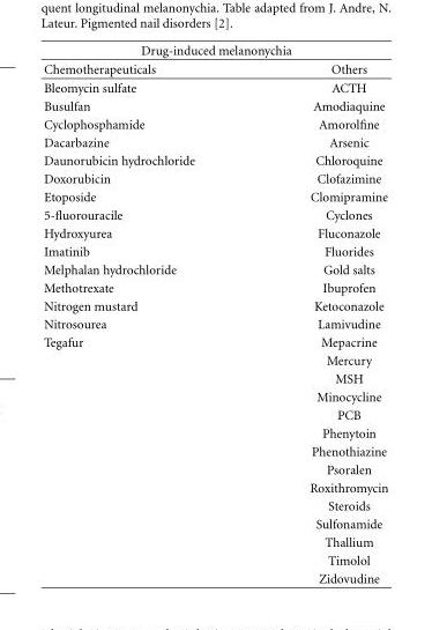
<table><thead><tr><td colspan="2">Drug-induced melanonychia</td></tr><tr><td>Chemotherapeuticals</td><td>Others</td></tr></thead><tbody><tr><td>Bleomycin sulfate</td><td>ACTH</td></tr><tr><td>Busulfan</td><td>Amodiaquine</td></tr><tr><td>Cyclophosphamide</td><td>Amorolfine</td></tr><tr><td>Dacarbazine</td><td>Arsenic</td></tr><tr><td>Daunorubicin hydrochloride</td><td>Chloroquine</td></tr><tr><td>Doxorubicin</td><td>Clofazimine</td></tr><tr><td>Etoposide</td><td>Clomipramine</td></tr><tr><td>5-fluorouracile</td><td>Cyclones</td></tr><tr><td>Hydroxyurea</td><td>Fluconazole</td></tr><tr><td>Imatinib</td><td>Fluorides</td></tr><tr><td>Melphalan hydrochloride</td><td>Gold salts</td></tr><tr><td>Methotrexate</td><td>Ibuprofen</td></tr><tr><td>Nitrogen mustard</td><td>Ketoconazole</td></tr><tr><td>Nitrosourea</td><td>Lamivudine</td></tr><tr><td rowspan="14">Tegafur</td><td>Mepacrine</td></tr><tr><td>Mercury</td></tr><tr><td>MSH</td></tr><tr><td>Minocycline</td></tr><tr><td>PCB</td></tr><tr><td>Phenytoin</td></tr><tr><td>Phenothiazine</td></tr><tr><td>Psoralen</td></tr><tr><td>Roxithromycin</td></tr><tr><td>Steroids</td></tr><tr><td>Sulfonamide</td></tr><tr><td>Thallium</td></tr><tr><td>Timolol</td></tr><tr><td>Zidovudine</td></tr></tbody></table>